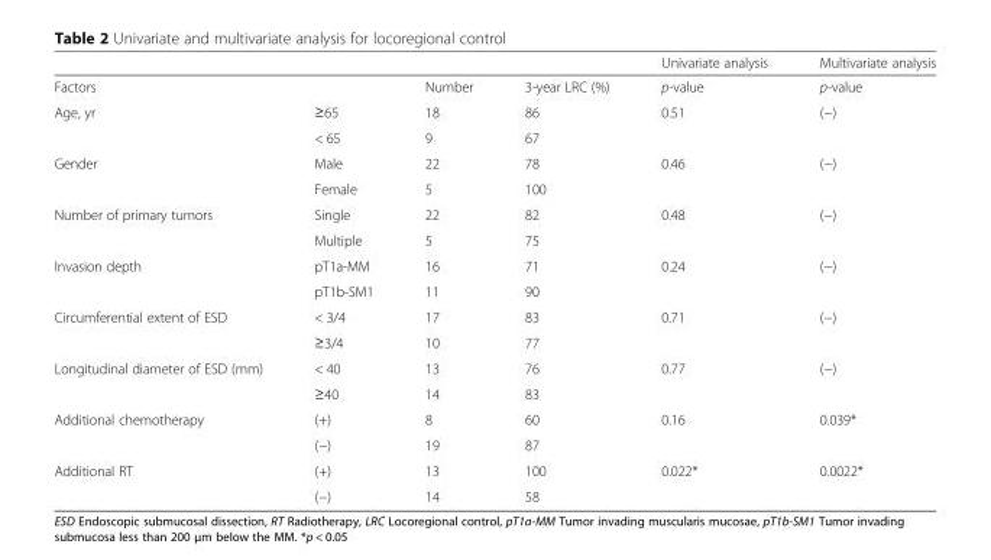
<table><thead><tr><td></td><td></td><td></td><td></td><td>Univariate analysis</td><td>Multivariate analysis</td></tr></thead><tbody><tr><td>Factors</td><td></td><td>Number</td><td>3-year LRC (%)</td><td>p-value</td><td>p-value</td></tr><tr><td rowspan="2">Age, yr</td><td>≥65</td><td>18</td><td>86</td><td>0.51</td><td>(−)</td></tr><tr><td>&lt; 65</td><td>9</td><td>67</td><td></td><td></td></tr><tr><td rowspan="2">Gender</td><td>Male</td><td>22</td><td>78</td><td>0.46</td><td>(−)</td></tr><tr><td>Female</td><td>5</td><td>100</td><td></td><td></td></tr><tr><td rowspan="2">Number of primary tumors</td><td>Single</td><td>22</td><td>82</td><td>0.48</td><td>(−)</td></tr><tr><td>Multiple</td><td>5</td><td>75</td><td></td><td></td></tr><tr><td rowspan="2">Invasion depth</td><td>pT1a-MM</td><td>16</td><td>71</td><td>0.24</td><td>(−)</td></tr><tr><td>pT1b-SM1</td><td>11</td><td>90</td><td></td><td></td></tr><tr><td rowspan="2">Circumferential extent of ESD</td><td>&lt; 3/4</td><td>17</td><td>83</td><td>0.71</td><td>(−)</td></tr><tr><td>≥3/4</td><td>10</td><td>77</td><td></td><td></td></tr><tr><td rowspan="2">Longitudinal diameter of ESD (mm)</td><td>&lt; 40</td><td>13</td><td>76</td><td>0.77</td><td>(−)</td></tr><tr><td>≥40</td><td>14</td><td>83</td><td></td><td></td></tr><tr><td rowspan="2">Additional chemotherapy</td><td>(+)</td><td>8</td><td>60</td><td>0.16</td><td>0.039*</td></tr><tr><td>(−)</td><td>19</td><td>87</td><td></td><td></td></tr><tr><td rowspan="2">Additional RT</td><td>(+)</td><td>13</td><td>100</td><td>0.022*</td><td>0.0022*</td></tr><tr><td>(−)</td><td>14</td><td>58</td><td></td><td></td></tr></tbody></table>